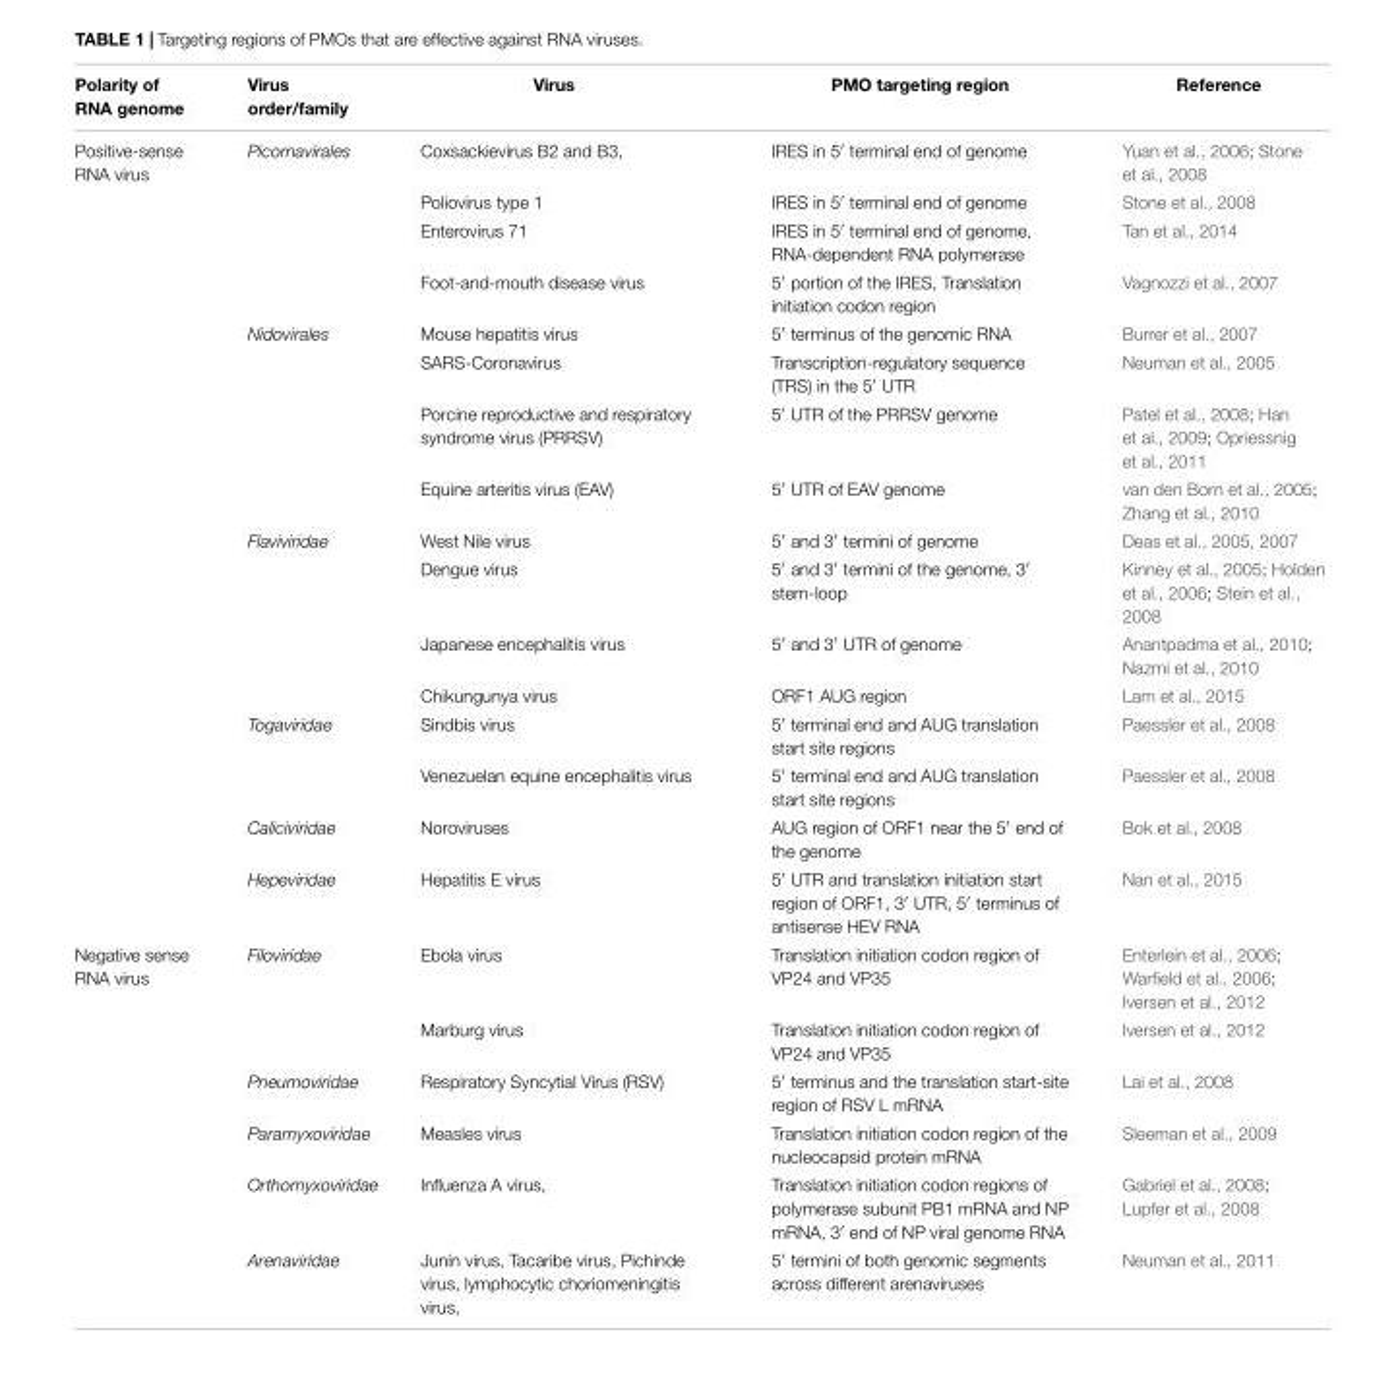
<table><thead><tr><td>Polarity of RNA genome</td><td>Virus order/family</td><td>Virus</td><td>PMO targeting region</td><td>Reference</td></tr></thead><tbody><tr><td rowspan="16">Positive-sense RNA virus</td><td>Picornavirales</td><td>Coxsackievirus B2 and B3,</td><td>IRES in 5′ terminal end of genome</td><td>Yuan et al., 2006; Stone et al., 2008</td></tr><tr><td></td><td>Poliovirus type 1</td><td>IRES in 5′ terminal end of genome</td><td>Stone et al., 2008</td></tr><tr><td></td><td>Enterovirus 71</td><td>IRES in 5′ terminal end of genome, RNA-dependent RNA polymerase</td><td>Tan et al., 2014</td></tr><tr><td></td><td>Foot-and-mouth disease virus</td><td>5′ portion of the IRES, Translation initiation codon region</td><td>Vagnozzi et al., 2007</td></tr><tr><td>Nidovirales</td><td>Mouse hepatitis virus</td><td>5′ terminus of the genomic RNA</td><td>Burrer et al., 2007</td></tr><tr><td></td><td>SARS-Coronavirus</td><td>Transcription-regulatory sequence (TRS) in the 5′ UTR</td><td>Neuman et al., 2005</td></tr><tr><td></td><td>Porcine reproductive and respiratory syndrome virus (PRRSV)</td><td>5′ UTR of the PRRSV genome</td><td>Patel et al., 2008; Han et al., 2009; Opriessnig et al., 2011</td></tr><tr><td></td><td>Equine arteritis virus (EAV)</td><td>5′ UTR of EAV genome</td><td>van den Born et al., 2005; Zhang et al., 2010</td></tr><tr><td>Flaviviridae</td><td>West Nile virus</td><td>5′ and 3′ termini of genome</td><td>Deas et al., 2005, 2007</td></tr><tr><td></td><td>Dengue virus</td><td>5′ and 3′ termini of the genome, 3′ stem-loop</td><td>Kinney et al., 2005; Holden et al., 2006; Stein et al., 2008</td></tr><tr><td></td><td>Japanese encephalitis virus</td><td>5′ and 3′ UTR of genome</td><td>Anantpadma et al., 2010; Nazmi et al., 2010</td></tr><tr><td></td><td>Chikungunya virus</td><td>ORF1 AUG region</td><td>Lam et al., 2015</td></tr><tr><td>Togaviridae</td><td>Sindbis virus</td><td>5′ terminal end and AUG translation start site regions</td><td>Paessler et al., 2008</td></tr><tr><td></td><td>Venezuelan equine encephalitis virus</td><td>5′ terminal end and AUG translation start site regions</td><td>Paessler et al., 2008</td></tr><tr><td>Caliciviridae</td><td>Noroviruses</td><td>AUG region of ORF1 near the 5′ end of the genome</td><td>Bok et al., 2008</td></tr><tr><td>Hepeviridae</td><td>Hepatitis E virus</td><td>5′ UTR and translation initiation start region of ORF1, 3′ UTR, 5′ terminus of antisense HEV RNA</td><td>Nan et al., 2015</td></tr><tr><td rowspan="6">Negative sense RNA virus</td><td>Filoviridae</td><td>Ebola virus</td><td>Translation initiation codon region of VP24 and VP35</td><td>Enterlein et al., 2006; Warfield et al., 2006; Iversen et al., 2012</td></tr><tr><td></td><td>Marburg virus</td><td>Translation initiation codon region of VP24 and VP35</td><td>Iversen et al., 2012</td></tr><tr><td>Pneumoviridae</td><td>Respiratory Syncytial Virus (RSV)</td><td>5′ terminus and the translation start-site region of RSV L mRNA</td><td>Lai et al., 2008</td></tr><tr><td>Paramyxoviridae</td><td>Measles virus</td><td>Translation initiation codon region of the nucleocapsid protein mRNA</td><td>Sleeman et al., 2009</td></tr><tr><td>Orthomyxoviridae</td><td>Influenza A virus,</td><td>Translation initiation codon regions of polymerase subunit PB1 mRNA and NP mRNA, 3′ end of NP viral genome RNA</td><td>Gabriel et al., 2008; Lupfer et al., 2008</td></tr><tr><td>Arenaviridae</td><td>Junín virus, Tacaribe virus, Pichinde virus, lymphocytic choriomeningitis virus,</td><td>5′ termini of both genomic segments across different arenaviruses</td><td>Neuman et al., 2011</td></tr></tbody></table>